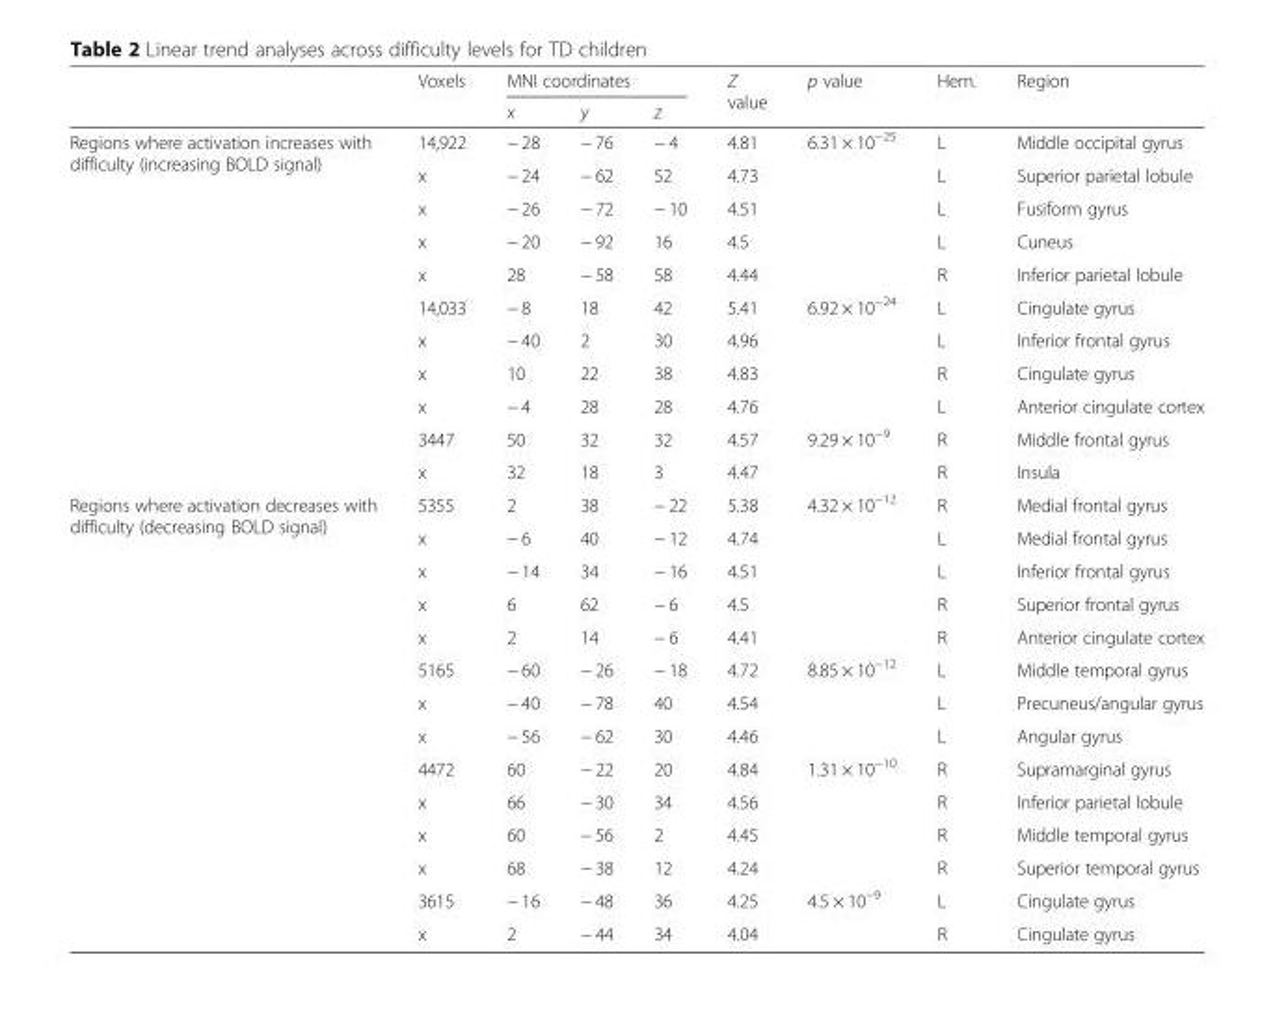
<table><thead><tr><td rowspan="2"></td><td rowspan="2">Voxels</td><td colspan="3">MNI coordinates</td><td rowspan="2">Z value</td><td rowspan="2">p value</td><td rowspan="2">Hem.</td><td rowspan="2">Region</td></tr><tr><td>x</td><td>y</td><td>z</td></tr></thead><tbody><tr><td rowspan="11">Regions where activation increases with difficulty (increasing BOLD signal)</td><td>14,922</td><td>− 28</td><td>− 76</td><td>− 4</td><td>4.81</td><td>6.31 × 10<sup>−25</sup></td><td>L</td><td>Middle occipital gyrus</td></tr><tr><td>x</td><td>− 24</td><td>− 62</td><td>52</td><td>4.73</td><td></td><td>L</td><td>Superior parietal lobule</td></tr><tr><td>x</td><td>− 26</td><td>− 72</td><td>− 10</td><td>4.51</td><td></td><td>L</td><td>Fusiform gyrus</td></tr><tr><td>x</td><td>− 20</td><td>− 92</td><td>16</td><td>4.5</td><td></td><td>L</td><td>Cuneus</td></tr><tr><td>x</td><td>28</td><td>− 58</td><td>58</td><td>4.44</td><td></td><td>R</td><td>Inferior parietal lobule</td></tr><tr><td>14,033</td><td>− 8</td><td>18</td><td>42</td><td>5.41</td><td>6.92 × 10<sup>−24</sup></td><td>L</td><td>Cingulate gyrus</td></tr><tr><td>x</td><td>− 40</td><td>2</td><td>30</td><td>4.96</td><td></td><td>L</td><td>Inferior frontal gyrus</td></tr><tr><td>x</td><td>10</td><td>22</td><td>38</td><td>4.83</td><td></td><td>R</td><td>Cingulate gyrus</td></tr><tr><td>x</td><td>− 4</td><td>28</td><td>28</td><td>4.76</td><td></td><td>L</td><td>Anterior cingulate cortex</td></tr><tr><td>3447</td><td>50</td><td>32</td><td>32</td><td>4.57</td><td>9.29 × 10<sup>−9</sup></td><td>R</td><td>Middle frontal gyrus</td></tr><tr><td>x</td><td>32</td><td>18</td><td>3</td><td>4.47</td><td></td><td>R</td><td>Insula</td></tr><tr><td rowspan="14">Regions where activation decreases with difficulty (decreasing BOLD signal)</td><td>5355</td><td>2</td><td>38</td><td>− 22</td><td>5.38</td><td>4.32 × 10<sup>−12</sup></td><td>R</td><td>Medial frontal gyrus</td></tr><tr><td>x</td><td>− 6</td><td>40</td><td>− 12</td><td>4.74</td><td></td><td>L</td><td>Medial frontal gyrus</td></tr><tr><td>x</td><td>− 14</td><td>34</td><td>− 16</td><td>4.51</td><td></td><td>L</td><td>Inferior frontal gyrus</td></tr><tr><td>x</td><td>6</td><td>62</td><td>− 6</td><td>4.5</td><td></td><td>R</td><td>Superior frontal gyrus</td></tr><tr><td>x</td><td>2</td><td>14</td><td>− 6</td><td>4.41</td><td></td><td>R</td><td>Anterior cingulate cortex</td></tr><tr><td>5165</td><td>− 60</td><td>− 26</td><td>− 18</td><td>4.72</td><td>8.85 × 10<sup>−12</sup></td><td>L</td><td>Middle temporal gyrus</td></tr><tr><td>x</td><td>− 40</td><td>− 78</td><td>40</td><td>4.54</td><td></td><td>L</td><td>Precuneus/angular gyrus</td></tr><tr><td>x</td><td>− 56</td><td>− 62</td><td>30</td><td>4.46</td><td></td><td>L</td><td>Angular gyrus</td></tr><tr><td>4472</td><td>60</td><td>− 22</td><td>20</td><td>4.84</td><td>1.31 × 10<sup>−10</sup></td><td>R</td><td>Supramarginal gyrus</td></tr><tr><td>x</td><td>66</td><td>− 30</td><td>34</td><td>4.56</td><td></td><td>R</td><td>Inferior parietal lobule</td></tr><tr><td>x</td><td>60</td><td>− 56</td><td>2</td><td>4.45</td><td></td><td>R</td><td>Middle temporal gyrus</td></tr><tr><td>x</td><td>68</td><td>− 38</td><td>12</td><td>4.24</td><td></td><td>R</td><td>Superior temporal gyrus</td></tr><tr><td>3615</td><td>− 16</td><td>− 48</td><td>36</td><td>4.25</td><td>4.5 × 10<sup>−9</sup></td><td>L</td><td>Cingulate gyrus</td></tr><tr><td>x</td><td>2</td><td>− 44</td><td>34</td><td>4.04</td><td></td><td>R</td><td>Cingulate gyrus</td></tr></tbody></table>